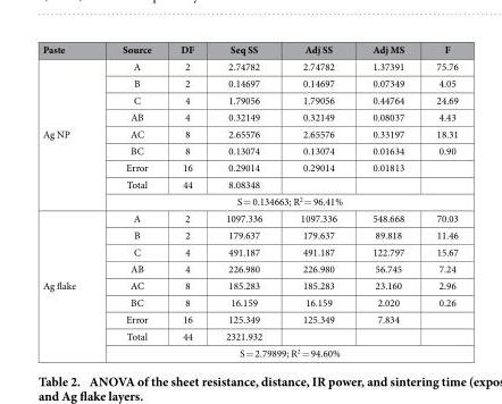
<table><thead><tr><td>Paste</td><td>Source</td><td>DF</td><td>Seq SS</td><td>Adj SS</td><td>Adj MS</td><td>F</td></tr></thead><tbody><tr><td rowspan="9">Ag NP</td><td>A</td><td>2</td><td>2.74782</td><td>2.74782</td><td>1.37391</td><td>75.76</td></tr><tr><td>B</td><td>2</td><td>0.14697</td><td>0.14697</td><td>0.07349</td><td>4.05</td></tr><tr><td>C</td><td>4</td><td>1.79056</td><td>1.79056</td><td>0.44764</td><td>24.69</td></tr><tr><td>AB</td><td>4</td><td>0.32149</td><td>0.32149</td><td>0.08037</td><td>4.43</td></tr><tr><td>AC</td><td>8</td><td>2.65576</td><td>2.65576</td><td>0.33197</td><td>18.31</td></tr><tr><td>BC</td><td>8</td><td>0.13074</td><td>0.13074</td><td>0.01634</td><td>0.90</td></tr><tr><td>Error</td><td>16</td><td>0.29014</td><td>0.29014</td><td>0.01813</td><td></td></tr><tr><td>Total</td><td>44</td><td>8.08348</td><td></td><td></td><td></td></tr><tr><td colspan="6">S = 0.134663; R<sup>2</sup> = 96.41%</td></tr><tr><td rowspan="9">Ag flake</td><td>A</td><td>2</td><td>1097.336</td><td>1097.336</td><td>548.668</td><td>70.03</td></tr><tr><td>B</td><td>2</td><td>179.637</td><td>179.637</td><td>89.818</td><td>11.46</td></tr><tr><td>C</td><td>4</td><td>491.187</td><td>491.187</td><td>122.797</td><td>15.67</td></tr><tr><td>AB</td><td>4</td><td>226.980</td><td>226.980</td><td>56.745</td><td>7.24</td></tr><tr><td>AC</td><td>8</td><td>185.283</td><td>185.283</td><td>23.160</td><td>2.96</td></tr><tr><td>BC</td><td>8</td><td>16.159</td><td>16.159</td><td>2.020</td><td>0.26</td></tr><tr><td>Error</td><td>16</td><td>125.349</td><td>125.349</td><td>7.834</td><td></td></tr><tr><td>Total</td><td>44</td><td>2321.932</td><td></td><td></td><td></td></tr><tr><td colspan="6">S = 2.79899; R<sup>2</sup> = 94.60%</td></tr></tbody></table>